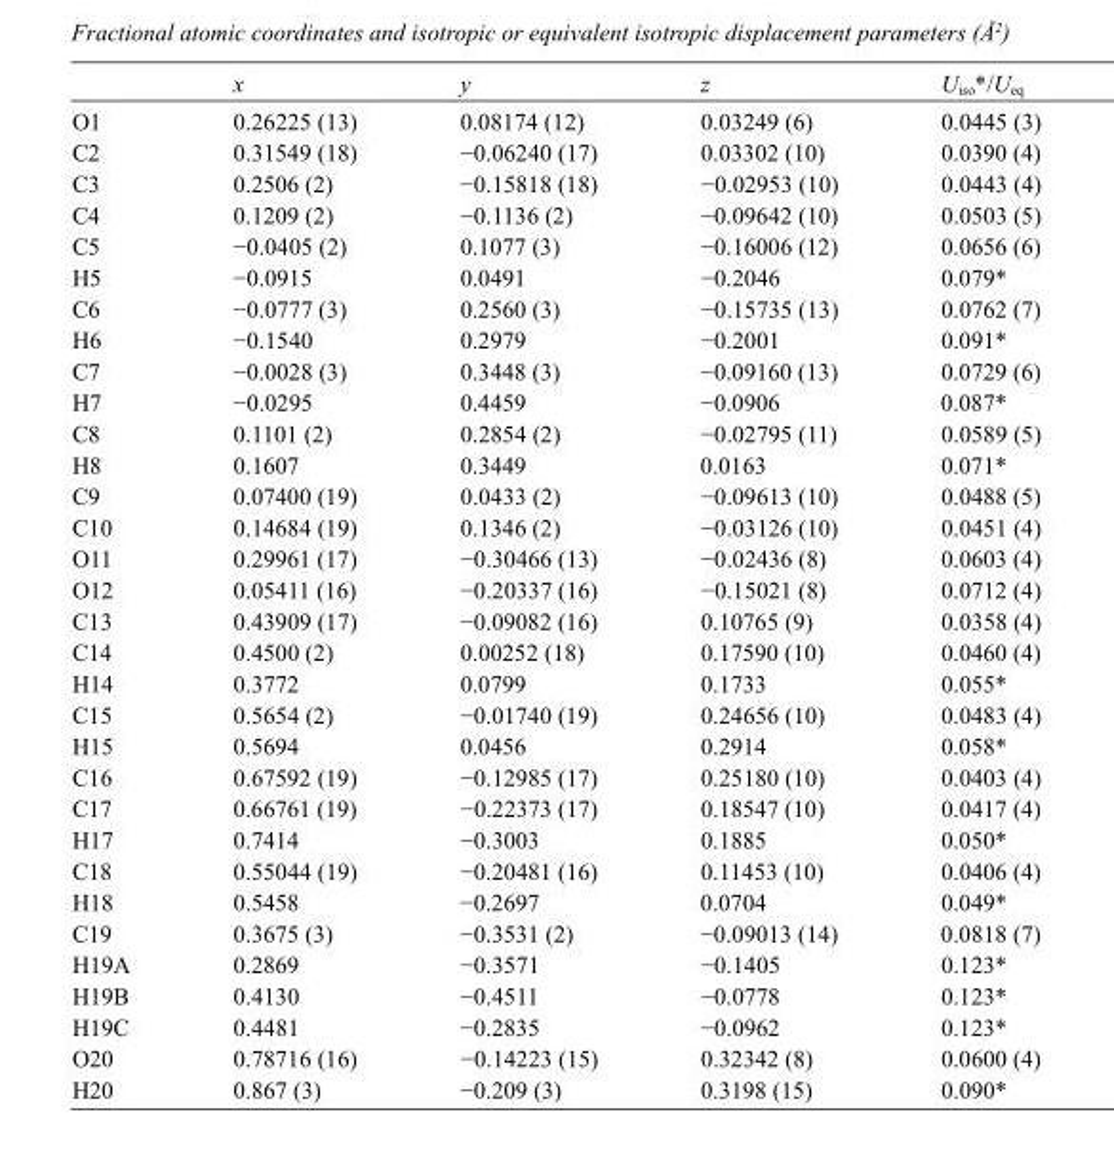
<table><thead><tr><td></td><td>x</td><td>y</td><td>z</td><td>U<sub>iso</sub>*/U<sub>eq</sub></td></tr></thead><tbody><tr><td>O1</td><td>0.26225 (13)</td><td>0.08174 (12)</td><td>0.03249 (6)</td><td>0.0445 (3)</td></tr><tr><td>C2</td><td>0.31549 (18)</td><td>−0.06240 (17)</td><td>0.03302 (10)</td><td>0.0390 (4)</td></tr><tr><td>C3</td><td>0.2506 (2)</td><td>−0.15818 (18)</td><td>−0.02953 (10)</td><td>0.0443 (4)</td></tr><tr><td>C4</td><td>0.1209 (2)</td><td>−0.1136 (2)</td><td>−0.09642 (10)</td><td>0.0503 (5)</td></tr><tr><td>C5</td><td>−0.0405 (2)</td><td>0.1077 (3)</td><td>−0.16006 (12)</td><td>0.0656 (6)</td></tr><tr><td>H5</td><td>−0.0915</td><td>0.0491</td><td>−0.2046</td><td>0.079*</td></tr><tr><td>C6</td><td>−0.0777 (3)</td><td>0.2560 (3)</td><td>−0.15735 (13)</td><td>0.0762 (7)</td></tr><tr><td>H6</td><td>−0.1540</td><td>0.2979</td><td>−0.2001</td><td>0.091*</td></tr><tr><td>C7</td><td>−0.0028 (3)</td><td>0.3448 (3)</td><td>−0.09160 (13)</td><td>0.0729 (6)</td></tr><tr><td>H7</td><td>−0.0295</td><td>0.4459</td><td>−0.0906</td><td>0.087*</td></tr><tr><td>C8</td><td>0.1101 (2)</td><td>0.2854 (2)</td><td>−0.02795 (11)</td><td>0.0589 (5)</td></tr><tr><td>H8</td><td>0.1607</td><td>0.3449</td><td>0.0163</td><td>0.071*</td></tr><tr><td>C9</td><td>0.07400 (19)</td><td>0.0433 (2)</td><td>−0.09613 (10)</td><td>0.0488 (5)</td></tr><tr><td>C10</td><td>0.14684 (19)</td><td>0.1346 (2)</td><td>−0.03126 (10)</td><td>0.0451 (4)</td></tr><tr><td>O11</td><td>0.29961 (17)</td><td>−0.30466 (13)</td><td>−0.02436 (8)</td><td>0.0603 (4)</td></tr><tr><td>O12</td><td>0.05411 (16)</td><td>−0.20337 (16)</td><td>−0.15021 (8)</td><td>0.0712 (4)</td></tr><tr><td>C13</td><td>0.43909 (17)</td><td>−0.09082 (16)</td><td>0.10765 (9)</td><td>0.0358 (4)</td></tr><tr><td>C14</td><td>0.4500 (2)</td><td>0.00252 (18)</td><td>0.17590 (10)</td><td>0.0460 (4)</td></tr><tr><td>H14</td><td>0.3772</td><td>0.0799</td><td>0.1733</td><td>0.055*</td></tr><tr><td>C15</td><td>0.5654 (2)</td><td>−0.01740 (19)</td><td>0.24656 (10)</td><td>0.0483 (4)</td></tr><tr><td>H15</td><td>0.5694</td><td>0.0456</td><td>0.2914</td><td>0.058*</td></tr><tr><td>C16</td><td>0.67592 (19)</td><td>−0.12985 (17)</td><td>0.25180 (10)</td><td>0.0403 (4)</td></tr><tr><td>C17</td><td>0.66761 (19)</td><td>−0.22373 (17)</td><td>0.18547 (10)</td><td>0.0417 (4)</td></tr><tr><td>H17</td><td>0.7414</td><td>−0.3003</td><td>0.1885</td><td>0.050*</td></tr><tr><td>C18</td><td>0.55044 (19)</td><td>−0.20481 (16)</td><td>0.11453 (10)</td><td>0.0406 (4)</td></tr><tr><td>H18</td><td>0.5458</td><td>−0.2697</td><td>0.0704</td><td>0.049*</td></tr><tr><td>C19</td><td>0.3675 (3)</td><td>−0.3531 (2)</td><td>−0.09013 (14)</td><td>0.0818 (7)</td></tr><tr><td>H19A</td><td>0.2869</td><td>−0.3571</td><td>−0.1405</td><td>0.123*</td></tr><tr><td>H19B</td><td>0.4130</td><td>−0.4511</td><td>−0.0778</td><td>0.123*</td></tr><tr><td>H19C</td><td>0.4481</td><td>−0.2835</td><td>−0.0962</td><td>0.123*</td></tr><tr><td>O20</td><td>0.78716 (16)</td><td>−0.14223 (15)</td><td>0.32342 (8)</td><td>0.0600 (4)</td></tr><tr><td>H20</td><td>0.867 (3)</td><td>−0.209 (3)</td><td>0.3198 (15)</td><td>0.090*</td></tr></tbody></table>